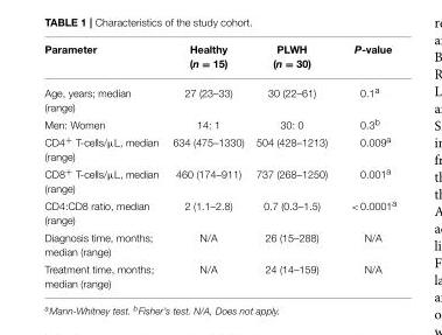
<table><thead><tr><td>Parameter</td><td>Healthy (n = 15)</td><td>PLWH (n = 30)</td><td>P-value</td></tr></thead><tbody><tr><td>Age, years; median (range)</td><td>27 (23–33)</td><td>30 (22–61)</td><td>0.1<sup>a</sup></td></tr><tr><td>Men: Women</td><td>14: 1</td><td>30: 0</td><td>0.3<sup>b</sup></td></tr><tr><td>CD4<sup>+</sup> T-cells/µL, median (range)</td><td>634 (475–1330)</td><td>504 (428–1213)</td><td>0.009<sup>a</sup></td></tr><tr><td>CD8<sup>+</sup> T-cells/µL, median (range)</td><td>460 (174–911)</td><td>737 (268–1250)</td><td>0.001<sup>a</sup></td></tr><tr><td>CD4:CD8 ratio, median (range)</td><td>2 (1.1–2.8)</td><td>0.7 (0.3–1.5)</td><td>&lt;0.0001<sup>a</sup></td></tr><tr><td>Diagnosis time, months; median (range)</td><td>N/A</td><td>26 (15–288)</td><td>N/A</td></tr><tr><td>Treatment time, months; median (range)</td><td>N/A</td><td>24 (14–159)</td><td>N/A</td></tr></tbody></table>